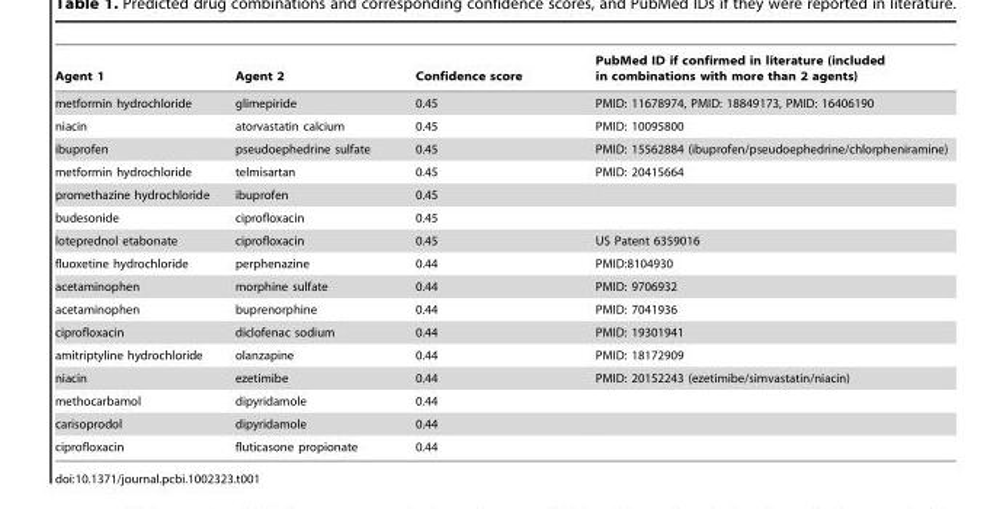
<table><thead><tr><td>Agent 1</td><td>Agent 2</td><td>Confidence score</td><td>PubMed ID if confirmed in literature (included in combinations with more than 2 agents)</td></tr></thead><tbody><tr><td>metformin hydrochloride</td><td>glimepiride</td><td>0.45</td><td>PMID: 11678974, PMID: 18849173, PMID: 16406190</td></tr><tr><td>niacin</td><td>atorvastatin calcium</td><td>0.45</td><td>PMID: 10095800</td></tr><tr><td>ibuprofen</td><td>pseudoephedrine sulfate</td><td>0.45</td><td>PMID: 15562884 (ibuprofen/pseudoephedrine/chlorpheniramine)</td></tr><tr><td>metformin hydrochloride</td><td>telmisartan</td><td>0.45</td><td>PMID: 20415664</td></tr><tr><td>promethazine hydrochloride</td><td>ibuprofen</td><td>0.45</td><td></td></tr><tr><td>budesonide</td><td>ciprofloxacin</td><td>0.45</td><td></td></tr><tr><td>loteprednol etabonate</td><td>ciprofloxacin</td><td>0.45</td><td>US Patent 6359016</td></tr><tr><td>fluoxetine hydrochloride</td><td>perphenazine</td><td>0.44</td><td>PMID:8104930</td></tr><tr><td>acetaminophen</td><td>morphine sulfate</td><td>0.44</td><td>PMID: 9706932</td></tr><tr><td>acetaminophen</td><td>buprenorphine</td><td>0.44</td><td>PMID: 7041936</td></tr><tr><td>ciprofloxacin</td><td>diclofenac sodium</td><td>0.44</td><td>PMID: 19301941</td></tr><tr><td>amitriptyline hydrochloride</td><td>olanzapine</td><td>0.44</td><td>PMID: 18172909</td></tr><tr><td>niacin</td><td>ezetimibe</td><td>0.44</td><td>PMID: 20152243 (ezetimibe/simvastatin/niacin)</td></tr><tr><td>methocarbamol</td><td>dipyridamole</td><td>0.44</td><td></td></tr><tr><td>carisoprodol</td><td>dipyridamole</td><td>0.44</td><td></td></tr><tr><td>ciprofloxacin</td><td>fluticasone propionate</td><td>0.44</td><td></td></tr></tbody></table>